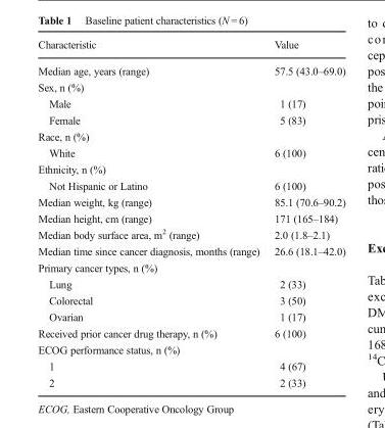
<table><thead><tr><td>Characteristic</td><td>Value</td></tr></thead><tbody><tr><td>Median age, years (range)</td><td>57.5 (43.0–69.0)</td></tr><tr><td colspan="2">Sex, n (%)</td></tr><tr><td>Male</td><td>1 (17)</td></tr><tr><td>Female</td><td>5 (83)</td></tr><tr><td colspan="2">Race, n (%)</td></tr><tr><td>White</td><td>6 (100)</td></tr><tr><td colspan="2">Ethnicity, n (%)</td></tr><tr><td>Not Hispanic or Latino</td><td>6 (100)</td></tr><tr><td>Median weight, kg (range)</td><td>85.1 (70.6–90.2)</td></tr><tr><td>Median height, cm (range)</td><td>171 (165–184)</td></tr><tr><td>Median body surface area, m<sup>2</sup> (range)</td><td>2.0 (1.8–2.1)</td></tr><tr><td>Median time since cancer diagnosis, months (range)</td><td>26.6 (18.1–42.0)</td></tr><tr><td colspan="2">Primary cancer types, n (%)</td></tr><tr><td>Lung</td><td>2 (33)</td></tr><tr><td>Colorectal</td><td>3 (50)</td></tr><tr><td>Ovarian</td><td>1 (17)</td></tr><tr><td>Received prior cancer drug therapy, n (%)</td><td>6 (100)</td></tr><tr><td colspan="2">ECOG performance status, n (%)</td></tr><tr><td>1</td><td>4 (67)</td></tr><tr><td>2</td><td>2 (33)</td></tr></tbody></table>